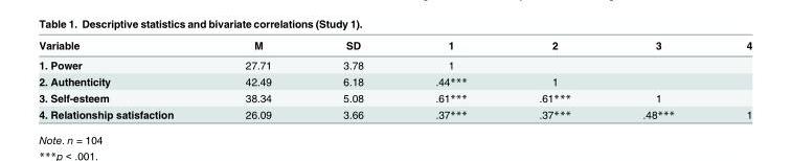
<table><thead><tr><td>Variable</td><td>M</td><td>SD</td><td>1</td><td>2</td><td>3</td><td>4</td></tr></thead><tbody><tr><td>1. Power</td><td>27.71</td><td>3.78</td><td>1</td><td></td><td></td><td></td></tr><tr><td>2. Authenticity</td><td>42.49</td><td>6.18</td><td>.44***</td><td>1</td><td></td><td></td></tr><tr><td>3. Self-esteem</td><td>38.34</td><td>5.08</td><td>.61***</td><td>.61***</td><td>1</td><td></td></tr><tr><td>4. Relationship satisfaction</td><td>26.09</td><td>3.66</td><td>.37***</td><td>.37***</td><td>.48***</td><td>1</td></tr></tbody></table>